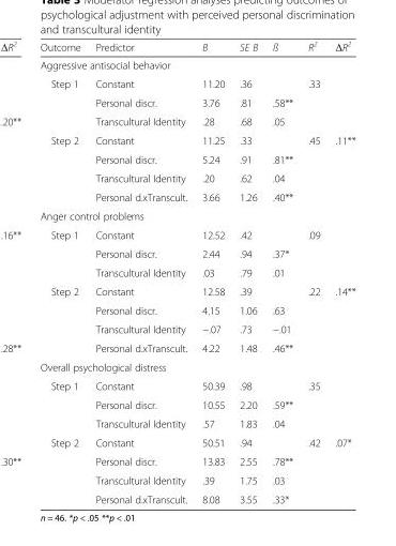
<table><thead><tr><td>Outcome</td><td>Predictor</td><td>B</td><td>SE B</td><td>ß</td><td>R<sup>2</sup></td><td>ΔR<sup>2</sup></td></tr></thead><tbody><tr><td colspan="7">Aggressive antisocial behavior</td></tr><tr><td rowspan="3">Step 1</td><td>Constant</td><td>11.20</td><td>.36</td><td></td><td>.33</td><td></td></tr><tr><td>Personal discr.</td><td>3.76</td><td>.81</td><td>.58**</td><td></td><td></td></tr><tr><td>Transcultural Identity</td><td>.28</td><td>.68</td><td>.05</td><td></td><td></td></tr><tr><td rowspan="4">Step 2</td><td>Constant</td><td>11.25</td><td>.33</td><td></td><td>.45</td><td>.11**</td></tr><tr><td>Personal discr.</td><td>5.24</td><td>.91</td><td>.81**</td><td></td><td></td></tr><tr><td>Transcultural Identity</td><td>.20</td><td>.62</td><td>.04</td><td></td><td></td></tr><tr><td>Personal d.xTranscult.</td><td>3.66</td><td>1.26</td><td>.40**</td><td></td><td></td></tr><tr><td colspan="7">Anger control problems</td></tr><tr><td rowspan="3">Step 1</td><td>Constant</td><td>12.52</td><td>.42</td><td></td><td>.09</td><td></td></tr><tr><td>Personal discr.</td><td>2.44</td><td>.94</td><td>.37*</td><td></td><td></td></tr><tr><td>Transcultural Identity</td><td>.03</td><td>.79</td><td>.01</td><td></td><td></td></tr><tr><td rowspan="4">Step 2</td><td>Constant</td><td>12.58</td><td>.39</td><td></td><td>.22</td><td>.14**</td></tr><tr><td>Personal discr.</td><td>4.15</td><td>1.06</td><td>.63</td><td></td><td></td></tr><tr><td>Transcultural Identity</td><td>−.07</td><td>.73</td><td>−.01</td><td></td><td></td></tr><tr><td>Personal d.xTranscult.</td><td>4.22</td><td>1.48</td><td>.46**</td><td></td><td></td></tr><tr><td colspan="7">Overall psychological distress</td></tr><tr><td rowspan="3">Step 1</td><td>Constant</td><td>50.39</td><td>.98</td><td></td><td>.35</td><td></td></tr><tr><td>Personal discr.</td><td>10.55</td><td>2.20</td><td>.59**</td><td></td><td></td></tr><tr><td>Transcultural Identity</td><td>.57</td><td>1.83</td><td>.04</td><td></td><td></td></tr><tr><td rowspan="4">Step 2</td><td>Constant</td><td>50.51</td><td>.94</td><td></td><td>.42</td><td>.07*</td></tr><tr><td>Personal discr.</td><td>13.83</td><td>2.55</td><td>.78**</td><td></td><td></td></tr><tr><td>Transcultural Identity</td><td>.39</td><td>1.75</td><td>.03</td><td></td><td></td></tr><tr><td>Personal d.xTranscult.</td><td>8.08</td><td>3.55</td><td>.33*</td><td></td><td></td></tr></tbody></table>